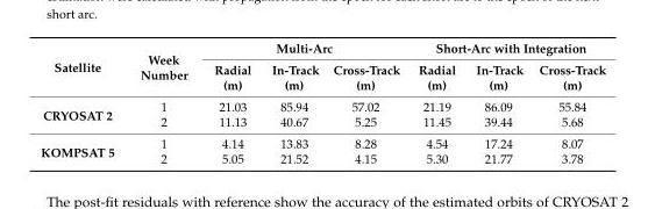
<table><thead><tr><td rowspan="2">Satellite</td><td rowspan="2">Week Number</td><td colspan="3">Multi-Arc</td><td colspan="3">Short-Arc with Integration</td></tr><tr><td>Radial (m)</td><td>In-Track (m)</td><td>Cross-Track (m)</td><td>Radial (m)</td><td>In-Track (m)</td><td>Cross-Track (m)</td></tr></thead><tbody><tr><td rowspan="2">CRYOSAT 2</td><td>1</td><td>21.03</td><td>85.94</td><td>57.02</td><td>21.19</td><td>86.09</td><td>55.84</td></tr><tr><td>2</td><td>11.13</td><td>40.67</td><td>5.25</td><td>11.45</td><td>39.44</td><td>5.68</td></tr><tr><td rowspan="2">KOMPSAT 5</td><td>1</td><td>4.14</td><td>13.83</td><td>8.28</td><td>4.54</td><td>17.24</td><td>8.07</td></tr><tr><td>2</td><td>5.05</td><td>21.52</td><td>4.15</td><td>5.30</td><td>21.77</td><td>3.78</td></tr></tbody></table>